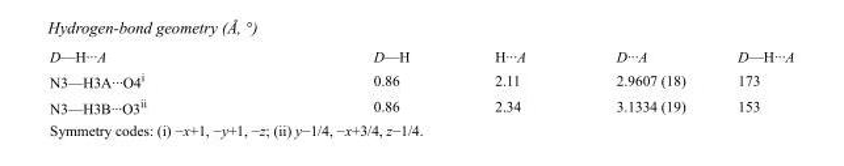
<table><tbody><tr><td>D—H···A</td><td>D—H</td><td>H···A</td><td>D···A</td><td>D—H···A</td></tr><tr><td>N3—H3A···O4<sup>i</sup></td><td>0.86</td><td>2.11</td><td>2.9607 (18)</td><td>173</td></tr><tr><td>N3—H3B···O3<sup>ii</sup></td><td>0.86</td><td>2.34</td><td>3.1334 (19)</td><td>153</td></tr></tbody></table>